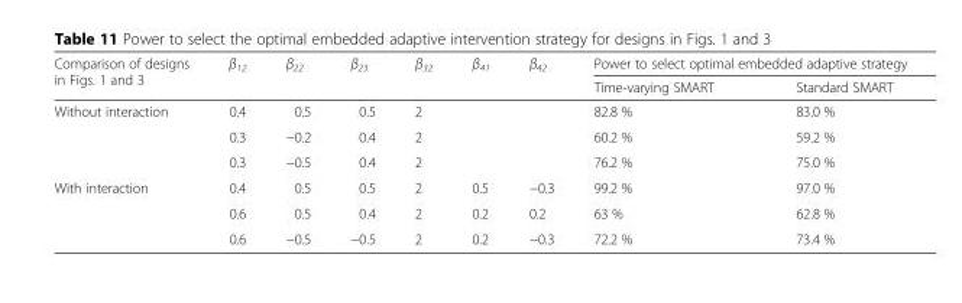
<table><thead><tr><td rowspan="2">Comparison of designs in Figs. 1 and 3</td><td rowspan="2">β<sub>12</sub></td><td rowspan="2">β<sub>22</sub></td><td rowspan="2">β<sub>23</sub></td><td rowspan="2">β<sub>32</sub></td><td rowspan="2">β<sub>41</sub></td><td rowspan="2">β<sub>42</sub></td><td colspan="2">Power to select optimal embedded adaptive strategy</td></tr><tr><td>Time-varying SMART</td><td>Standard SMART</td></tr></thead><tbody><tr><td rowspan="3">Without interaction</td><td>0.4</td><td>0.5</td><td>0.5</td><td>2</td><td></td><td></td><td>82.8 %</td><td>83.0 %</td></tr><tr><td>0.3</td><td>−0.2</td><td>0.4</td><td>2</td><td></td><td></td><td>60.2 %</td><td>59.2 %</td></tr><tr><td>0.3</td><td>−0.5</td><td>0.4</td><td>2</td><td></td><td></td><td>76.2 %</td><td>75.0 %</td></tr><tr><td rowspan="3">With interaction</td><td>0.4</td><td>0.5</td><td>0.5</td><td>2</td><td>0.5</td><td>−0.3</td><td>99.2 %</td><td>97.0 %</td></tr><tr><td>0.6</td><td>0.5</td><td>0.4</td><td>2</td><td>0.2</td><td>0.2</td><td>63 %</td><td>62.8 %</td></tr><tr><td>0.6</td><td>−0.5</td><td>−0.5</td><td>2</td><td>0.2</td><td>−0.3</td><td>72.2 %</td><td>73.4 %</td></tr></tbody></table>